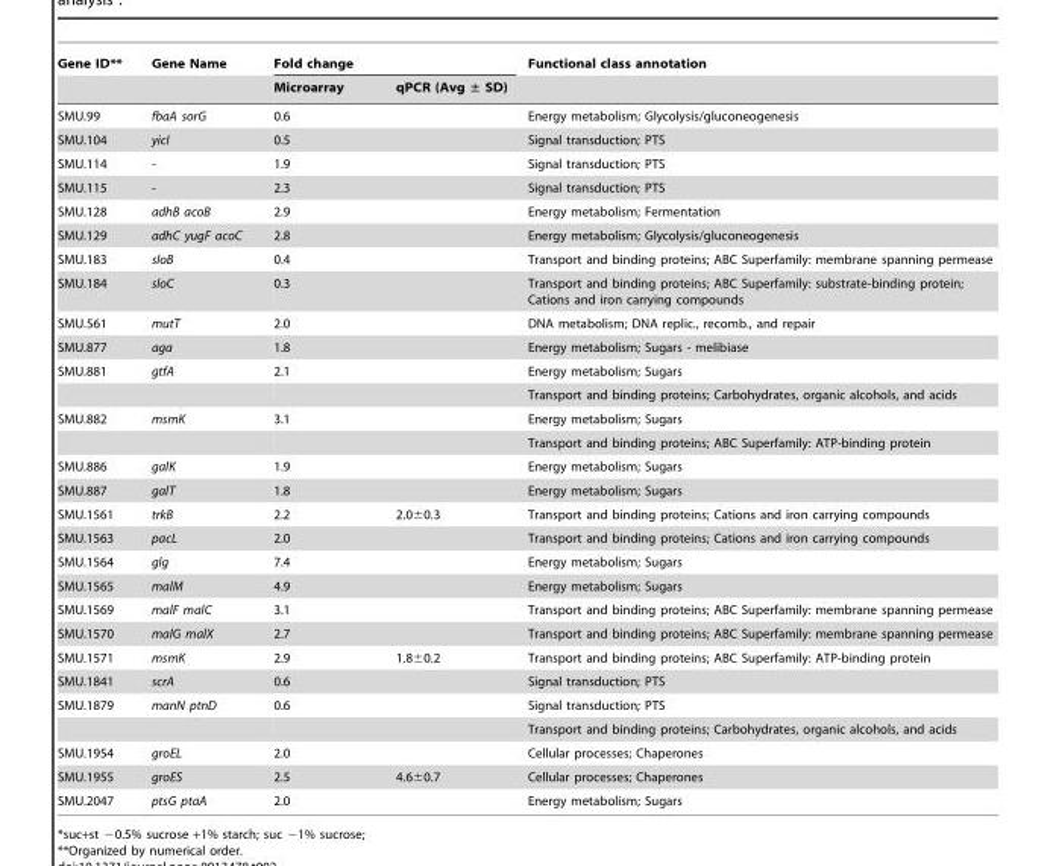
<table><thead><tr><td rowspan="2">Gene ID**</td><td rowspan="2">Gene Name</td><td colspan="2">Fold change</td><td rowspan="2">Functional class annotation</td></tr><tr><td>Microarray</td><td>qPCR (Avg ± SD)</td></tr></thead><tbody><tr><td>SMU.99</td><td>fbaA sorG</td><td>0.6</td><td></td><td>Energy metabolism; Glycolysis/gluconeogenesis</td></tr><tr><td>SMU.104</td><td>yicI</td><td>0.5</td><td></td><td>Signal transduction; PTS</td></tr><tr><td>SMU.114</td><td>-</td><td>1.9</td><td></td><td>Signal transduction; PTS</td></tr><tr><td>SMU.115</td><td>-</td><td>2.3</td><td></td><td>Signal transduction; PTS</td></tr><tr><td>SMU.128</td><td>adhB acoB</td><td>2.9</td><td></td><td>Energy metabolism; Fermentation</td></tr><tr><td>SMU.129</td><td>adhC yugF acoC</td><td>2.8</td><td></td><td>Energy metabolism; Glycolysis/gluconeogenesis</td></tr><tr><td>SMU.183</td><td>sloB</td><td>0.4</td><td></td><td>Transport and binding proteins; ABC Superfamily: membrane spanning permease</td></tr><tr><td>SMU.184</td><td>sloC</td><td>0.3</td><td></td><td>Transport and binding proteins; ABC Superfamily: substrate-binding protein; Cations and iron carrying compounds</td></tr><tr><td>SMU.561</td><td>mutT</td><td>2.0</td><td></td><td>DNA metabolism; DNA replic., recomb., and repair</td></tr><tr><td>SMU.877</td><td>aga</td><td>1.8</td><td></td><td>Energy metabolism; Sugars - melibiase</td></tr><tr><td rowspan="2">SMU.881</td><td>gtfA</td><td>2.1</td><td></td><td>Energy metabolism; Sugars</td></tr><tr><td></td><td></td><td></td><td>Transport and binding proteins; Carbohydrates, organic alcohols, and acids</td></tr><tr><td rowspan="2">SMU.882</td><td>msmK</td><td>3.1</td><td></td><td>Energy metabolism; Sugars</td></tr><tr><td></td><td></td><td></td><td>Transport and binding proteins; ABC Superfamily: ATP-binding protein</td></tr><tr><td>SMU.886</td><td>galK</td><td>1.9</td><td></td><td>Energy metabolism; Sugars</td></tr><tr><td>SMU.887</td><td>galT</td><td>1.8</td><td></td><td>Energy metabolism; Sugars</td></tr><tr><td>SMU.1561</td><td>trkB</td><td>2.2</td><td>2.0±0.3</td><td>Transport and binding proteins; Cations and iron carrying compounds</td></tr><tr><td>SMU.1563</td><td>pacL</td><td>2.0</td><td></td><td>Transport and binding proteins; Cations and iron carrying compounds</td></tr><tr><td>SMU.1564</td><td>glg</td><td>7.4</td><td></td><td>Energy metabolism; Sugars</td></tr><tr><td>SMU.1565</td><td>malM</td><td>4.9</td><td></td><td>Energy metabolism; Sugars</td></tr><tr><td>SMU.1569</td><td>malF malC</td><td>3.1</td><td></td><td>Transport and binding proteins; ABC Superfamily: membrane spanning permease</td></tr><tr><td>SMU.1570</td><td>malG malX</td><td>2.7</td><td></td><td>Transport and binding proteins; ABC Superfamily: membrane spanning permease</td></tr><tr><td>SMU.1571</td><td>msmK</td><td>2.9</td><td>1.8±0.2</td><td>Transport and binding proteins; ABC Superfamily: ATP-binding protein</td></tr><tr><td>SMU.1841</td><td>scrA</td><td>0.6</td><td></td><td>Signal transduction; PTS</td></tr><tr><td rowspan="2">SMU.1879</td><td>manN ptnD</td><td>0.6</td><td></td><td>Signal transduction; PTS</td></tr><tr><td></td><td></td><td></td><td>Transport and binding proteins; Carbohydrates, organic alcohols, and acids</td></tr><tr><td>SMU.1954</td><td>groEL</td><td>2.0</td><td></td><td>Cellular processes; Chaperones</td></tr><tr><td>SMU.1955</td><td>groES</td><td>2.5</td><td>4.6±0.7</td><td>Cellular processes; Chaperones</td></tr><tr><td>SMU.2047</td><td>ptsG ptaA</td><td>2.0</td><td></td><td>Energy metabolism; Sugars</td></tr></tbody></table>